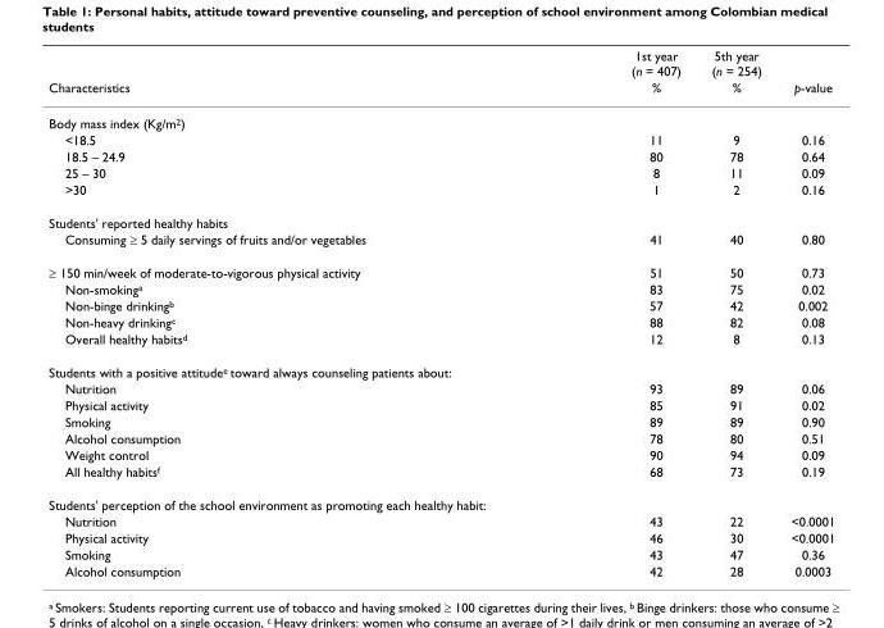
<table><thead><tr><td rowspan="2">Characteristics</td><td rowspan="2">1st year (n = 407) %</td><td rowspan="2">5th year (n = 254) %</td><td rowspan="2">p-value</td></tr><tr></tr></thead><tbody><tr><td colspan="4">Body mass index (Kg/m<sup>2</sup>)</td></tr><tr><td>&lt;18.5</td><td>11</td><td>9</td><td>0.16</td></tr><tr><td>18.5 – 24.9</td><td>80</td><td>78</td><td>0.64</td></tr><tr><td>25 – 30</td><td>8</td><td>11</td><td>0.09</td></tr><tr><td>&gt;30</td><td>1</td><td>2</td><td>0.16</td></tr><tr><td colspan="4">Students&#x27; reported healthy habits</td></tr><tr><td>Consuming ≥ 5 daily servings of fruits and/or vegetables</td><td>41</td><td>40</td><td>0.80</td></tr><tr><td>≥ 150 min/week of moderate-to-vigorous physical activity</td><td>51</td><td>50</td><td>0.73</td></tr><tr><td>Non-smoking<sup>a</sup></td><td>83</td><td>75</td><td>0.02</td></tr><tr><td>Non-binge drinking<sup>b</sup></td><td>57</td><td>42</td><td>0.002</td></tr><tr><td>Non-heavy drinking<sup>c</sup></td><td>88</td><td>82</td><td>0.08</td></tr><tr><td>Overall healthy habits<sup>d</sup></td><td>12</td><td>8</td><td>0.13</td></tr><tr><td colspan="4">Students with a positive attitude<sup>e</sup> toward always counseling patients about:</td></tr><tr><td>Nutrition</td><td>93</td><td>89</td><td>0.06</td></tr><tr><td>Physical activity</td><td>85</td><td>91</td><td>0.02</td></tr><tr><td>Smoking</td><td>89</td><td>89</td><td>0.90</td></tr><tr><td>Alcohol consumption</td><td>78</td><td>80</td><td>0.51</td></tr><tr><td>Weight control</td><td>90</td><td>94</td><td>0.09</td></tr><tr><td>All healthy habits<sup>f</sup></td><td>68</td><td>73</td><td>0.19</td></tr><tr><td colspan="4">Students&#x27; perception of the school environment as promoting each healthy habit:</td></tr><tr><td>Nutrition</td><td>43</td><td>22</td><td>&lt;0.0001</td></tr><tr><td>Physical activity</td><td>46</td><td>30</td><td>&lt;0.0001</td></tr><tr><td>Smoking</td><td>43</td><td>47</td><td>0.36</td></tr><tr><td>Alcohol consumption</td><td>42</td><td>28</td><td>0.0003</td></tr></tbody></table>